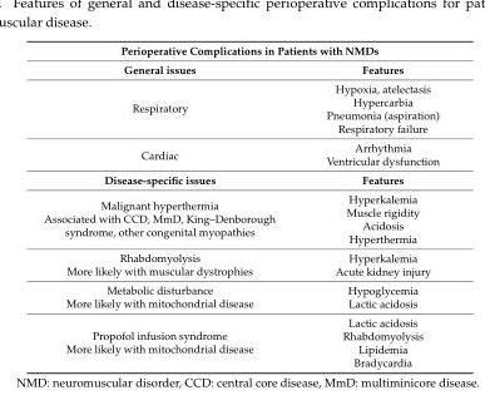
<table><thead><tr><td colspan="2">Perioperative Complications in Patients with NMDs</td></tr><tr><td>General issues</td><td>Features</td></tr></thead><tbody><tr><td rowspan="4">Respiratory</td><td>Hypoxia, atelectasis</td></tr><tr><td>Hypercarbia</td></tr><tr><td>Pneumonia (aspiration)</td></tr><tr><td>Respiratory failure</td></tr><tr><td rowspan="2">Cardiac</td><td>Arrhythmia</td></tr><tr><td>Ventricular dysfunction</td></tr><tr><td>Disease-specific issues</td><td>Features</td></tr><tr><td rowspan="4">Malignant hyperthermia Associated with CCD, MmD, King–Denborough syndrome, other congenital myopathies</td><td>Hyperkalemia</td></tr><tr><td>Muscle rigidity</td></tr><tr><td>Acidosis</td></tr><tr><td>Hyperthermia</td></tr><tr><td rowspan="2">Rhabdomyolysis More likely with muscular dystrophies</td><td>Hyperkalemia</td></tr><tr><td>Acute kidney injury</td></tr><tr><td rowspan="2">Metabolic disturbance More likely with mitochondrial disease</td><td>Hypoglycemia</td></tr><tr><td>Lactic acidosis</td></tr><tr><td rowspan="4">Propofol infusion syndrome More likely with mitochondrial disease</td><td>Lactic acidosis</td></tr><tr><td>Rhabdomyolysis</td></tr><tr><td>Lipidemia</td></tr><tr><td>Bradycardia</td></tr></tbody></table>